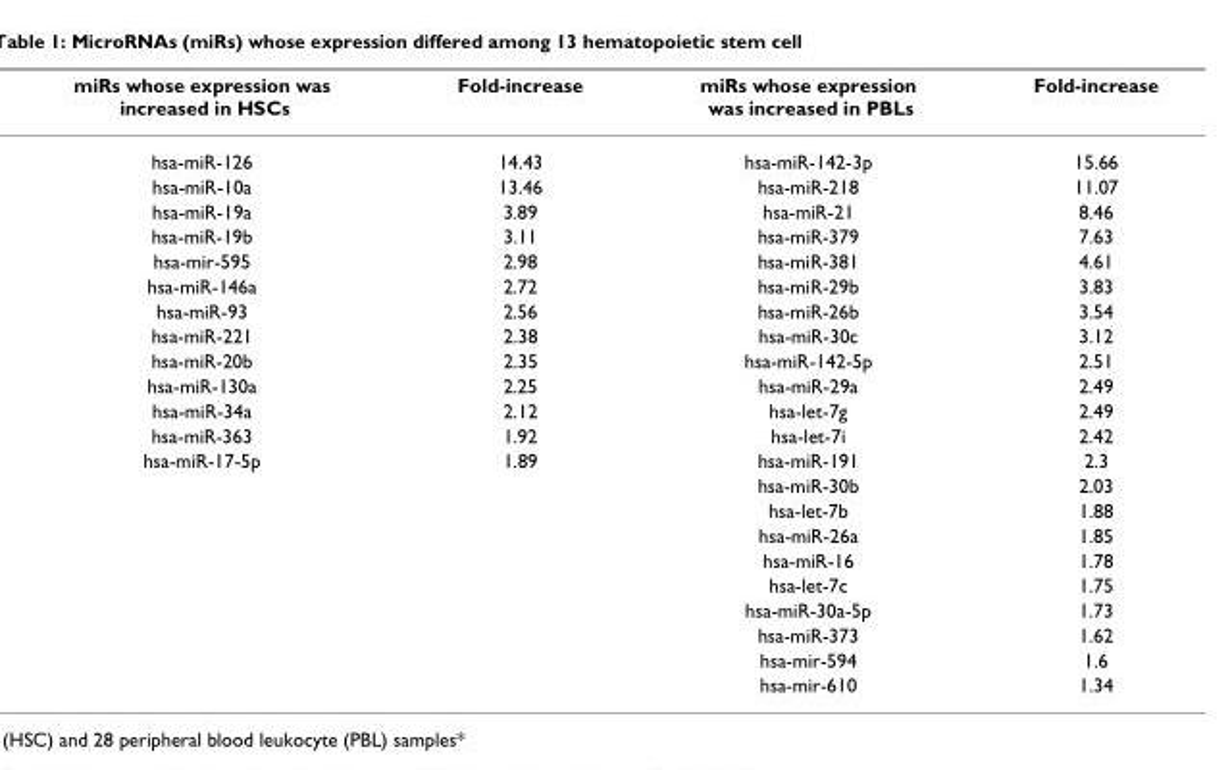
<table><thead><tr><td>miRs whose expression was increased in HSCs</td><td>Fold-increase</td><td>miRs whose expression was increased in PBLs</td><td>Fold-increase</td></tr></thead><tbody><tr><td>hsa-miR-126</td><td>14.43</td><td>hsa-miR-142-3p</td><td>15.66</td></tr><tr><td>hsa-miR-10a</td><td>13.46</td><td>hsa-miR-218</td><td>11.07</td></tr><tr><td>hsa-miR-19a</td><td>3.89</td><td>hsa-miR-21</td><td>8.46</td></tr><tr><td>hsa-miR-19b</td><td>3.11</td><td>hsa-miR-379</td><td>7.63</td></tr><tr><td>hsa-mir-595</td><td>2.98</td><td>hsa-miR-381</td><td>4.61</td></tr><tr><td>hsa-miR-146a</td><td>2.72</td><td>hsa-miR-29b</td><td>3.83</td></tr><tr><td>hsa-miR-93</td><td>2.56</td><td>hsa-miR-26b</td><td>3.54</td></tr><tr><td>hsa-miR-221</td><td>2.38</td><td>hsa-miR-30c</td><td>3.12</td></tr><tr><td>hsa-miR-20b</td><td>2.35</td><td>hsa-miR-142-5p</td><td>2.51</td></tr><tr><td>hsa-miR-130a</td><td>2.25</td><td>hsa-miR-29a</td><td>2.49</td></tr><tr><td>hsa-miR-34a</td><td>2.12</td><td>hsa-let-7g</td><td>2.49</td></tr><tr><td>hsa-miR-363</td><td>1.92</td><td>hsa-let-7i</td><td>2.42</td></tr><tr><td rowspan="10">hsa-miR-17-5p</td><td>1.89</td><td>hsa-miR-191</td><td>2.3</td></tr><tr><td></td><td>hsa-miR-30b</td><td>2.03</td></tr><tr><td></td><td>hsa-let-7b</td><td>1.88</td></tr><tr><td></td><td>hsa-miR-26a</td><td>1.85</td></tr><tr><td></td><td>hsa-miR-16</td><td>1.78</td></tr><tr><td></td><td>hsa-let-7c</td><td>1.75</td></tr><tr><td></td><td>hsa-miR-30a-5p</td><td>1.73</td></tr><tr><td></td><td>hsa-miR-373</td><td>1.62</td></tr><tr><td></td><td>hsa-mir-594</td><td>1.6</td></tr><tr><td></td><td>hsa-mir-610</td><td>1.34</td></tr></tbody></table>